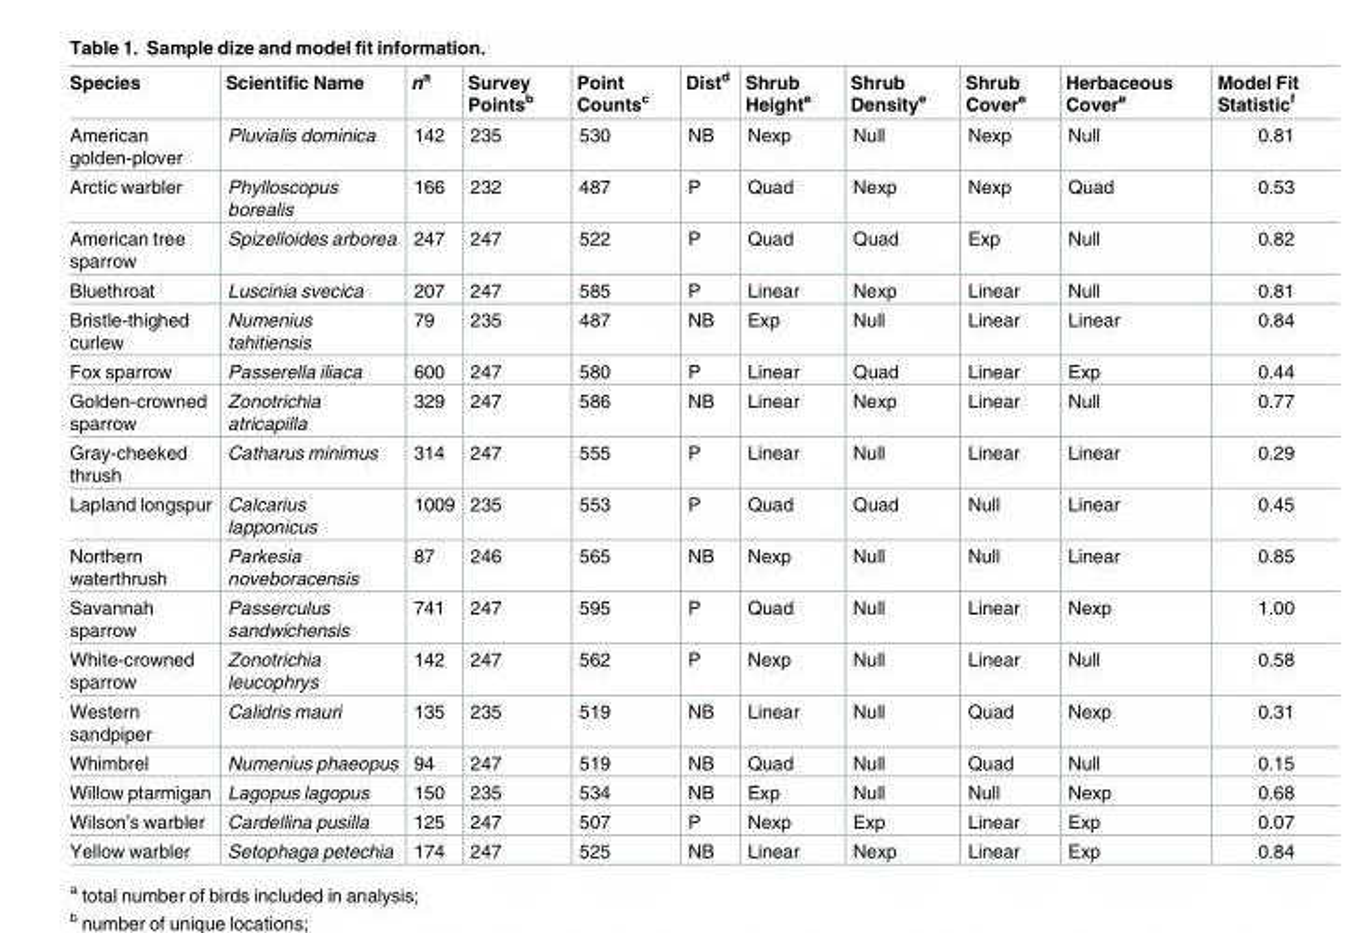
<table><thead><tr><td>Species</td><td>Scientific Name</td><td>n<sup>a</sup></td><td>Survey Points<sup>b</sup></td><td>Point Counts<sup>c</sup></td><td>Dist<sup>d</sup></td><td>Shrub Height<sup>e</sup></td><td>Shrub Density<sup>e</sup></td><td>Shrub Cover<sup>e</sup></td><td>Herbaceous Cover<sup>e</sup></td><td>Model Fit Statistic<sup>f</sup></td></tr></thead><tbody><tr><td>American golden-plover</td><td>Pluvialis dominica</td><td>142</td><td>235</td><td>530</td><td>NB</td><td>Nexp</td><td>Null</td><td>Nexp</td><td>Null</td><td>0.81</td></tr><tr><td>Arctic warbler</td><td>Phylloscopus borealis</td><td>166</td><td>232</td><td>487</td><td>P</td><td>Quad</td><td>Nexp</td><td>Nexp</td><td>Quad</td><td>0.53</td></tr><tr><td>American tree sparrow</td><td>Spizelloides arborea</td><td>247</td><td>247</td><td>522</td><td>P</td><td>Quad</td><td>Quad</td><td>Exp</td><td>Null</td><td>0.82</td></tr><tr><td>Bluethroat</td><td>Luscinia svecica</td><td>207</td><td>247</td><td>585</td><td>P</td><td>Linear</td><td>Nexp</td><td>Linear</td><td>Null</td><td>0.81</td></tr><tr><td>Bristle-thighed curlew</td><td>Numenius tahitiensis</td><td>79</td><td>235</td><td>487</td><td>NB</td><td>Exp</td><td>Null</td><td>Linear</td><td>Linear</td><td>0.84</td></tr><tr><td>Fox sparrow</td><td>Passerella iliaca</td><td>600</td><td>247</td><td>580</td><td>P</td><td>Linear</td><td>Quad</td><td>Linear</td><td>Exp</td><td>0.44</td></tr><tr><td>Golden-crowned sparrow</td><td>Zonotrichia atricapilla</td><td>329</td><td>247</td><td>586</td><td>NB</td><td>Linear</td><td>Nexp</td><td>Linear</td><td>Null</td><td>0.77</td></tr><tr><td>Gray-cheeked thrush</td><td>Catharus minimus</td><td>314</td><td>247</td><td>555</td><td>P</td><td>Linear</td><td>Null</td><td>Linear</td><td>Linear</td><td>0.29</td></tr><tr><td>Lapland longspur</td><td>Calcarius lapponicus</td><td>1009</td><td>235</td><td>553</td><td>P</td><td>Quad</td><td>Quad</td><td>Null</td><td>Linear</td><td>0.45</td></tr><tr><td>Northern waterthrush</td><td>Parkesia noveboracensis</td><td>87</td><td>246</td><td>565</td><td>NB</td><td>Nexp</td><td>Null</td><td>Null</td><td>Linear</td><td>0.85</td></tr><tr><td>Savannah sparrow</td><td>Passerculus sandwichensis</td><td>741</td><td>247</td><td>595</td><td>P</td><td>Quad</td><td>Null</td><td>Linear</td><td>Nexp</td><td>1.00</td></tr><tr><td>White-crowned sparrow</td><td>Zonotrichia leucophrys</td><td>142</td><td>247</td><td>562</td><td>P</td><td>Nexp</td><td>Null</td><td>Linear</td><td>Null</td><td>0.58</td></tr><tr><td>Western sandpiper</td><td>Calidris mauri</td><td>135</td><td>235</td><td>519</td><td>NB</td><td>Linear</td><td>Null</td><td>Quad</td><td>Nexp</td><td>0.31</td></tr><tr><td>Whimbrel</td><td>Numenius phaeopus</td><td>94</td><td>247</td><td>519</td><td>NB</td><td>Quad</td><td>Null</td><td>Quad</td><td>Null</td><td>0.15</td></tr><tr><td>Willow ptarmigan</td><td>Lagopus lagopus</td><td>150</td><td>235</td><td>534</td><td>NB</td><td>Exp</td><td>Null</td><td>Null</td><td>Nexp</td><td>0.68</td></tr><tr><td>Wilson’s warbler</td><td>Cardellina pusilla</td><td>125</td><td>247</td><td>507</td><td>P</td><td>Nexp</td><td>Exp</td><td>Linear</td><td>Exp</td><td>0.07</td></tr><tr><td>Yellow warbler</td><td>Setophaga petechia</td><td>174</td><td>247</td><td>525</td><td>NB</td><td>Linear</td><td>Nexp</td><td>Linear</td><td>Exp</td><td>0.84</td></tr></tbody></table>